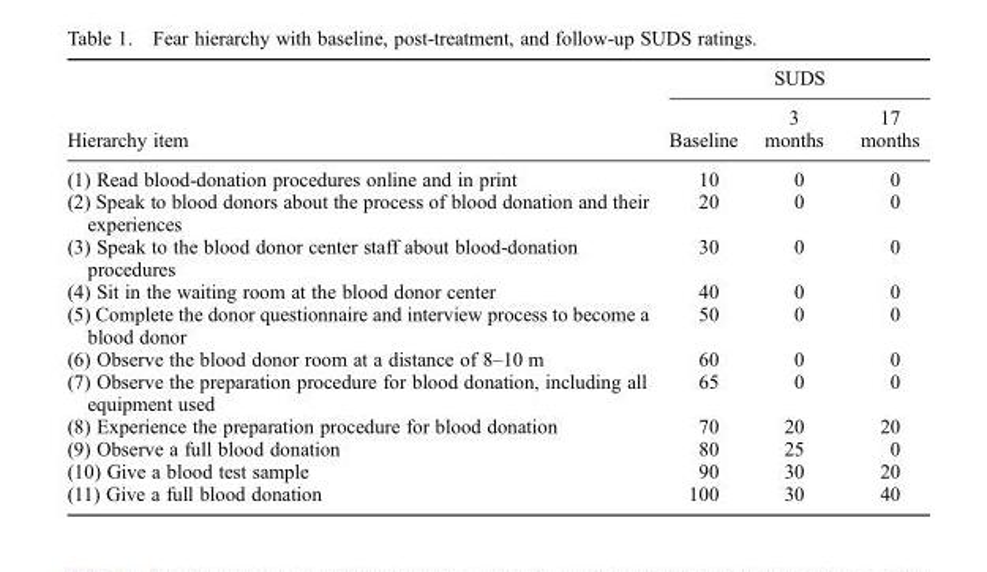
<table><thead><tr><td rowspan="2">Hierarchy item</td><td colspan="3">SUDS</td></tr><tr><td>Baseline</td><td>3 months</td><td>17 months</td></tr></thead><tbody><tr><td>(1) Read blood-donation procedures online and in print</td><td>10</td><td>0</td><td>0</td></tr><tr><td>(2) Speak to blood donors about the process of blood donation and their experiences</td><td>20</td><td>0</td><td>0</td></tr><tr><td>(3) Speak to the blood donor center staff about blood-donation procedures</td><td>30</td><td>0</td><td>0</td></tr><tr><td>(4) Sit in the waiting room at the blood donor center</td><td>40</td><td>0</td><td>0</td></tr><tr><td>(5) Complete the donor questionnaire and interview process to become a blood donor</td><td>50</td><td>0</td><td>0</td></tr><tr><td>(6) Observe the blood donor room at a distance of 8–10 m</td><td>60</td><td>0</td><td>0</td></tr><tr><td>(7) Observe the preparation procedure for blood donation, including all equipment used</td><td>65</td><td>0</td><td>0</td></tr><tr><td>(8) Experience the preparation procedure for blood donation</td><td>70</td><td>20</td><td>20</td></tr><tr><td>(9) Observe a full blood donation</td><td>80</td><td>25</td><td>0</td></tr><tr><td>(10) Give a blood test sample</td><td>90</td><td>30</td><td>20</td></tr><tr><td>(11) Give a full blood donation</td><td>100</td><td>30</td><td>40</td></tr></tbody></table>